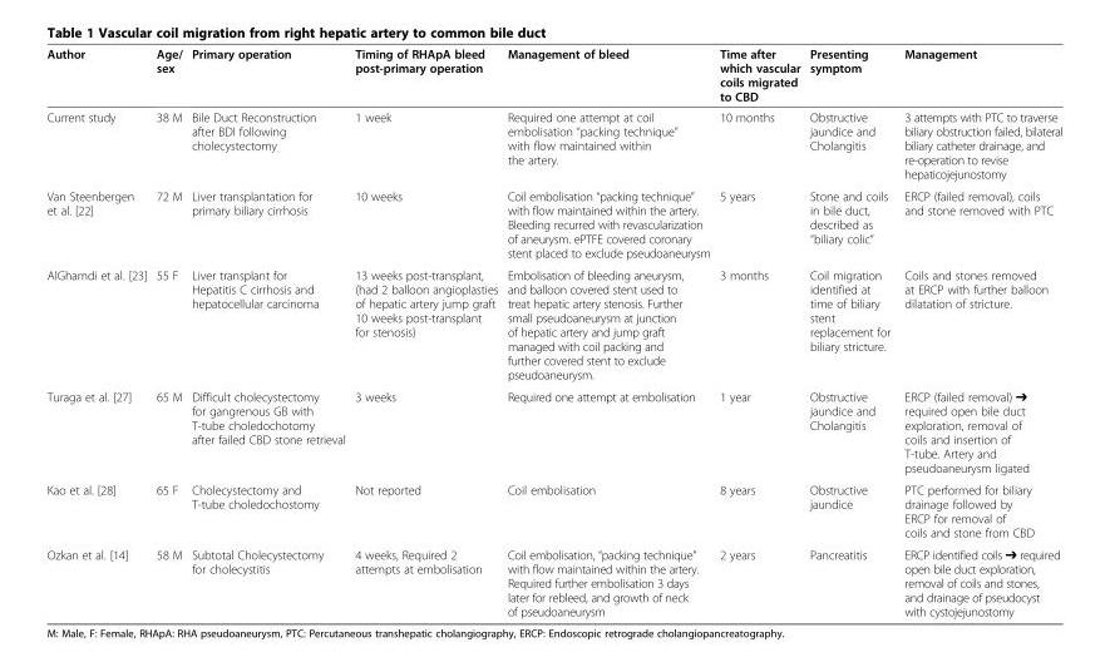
<table><thead><tr><td>Author</td><td>Age/ sex</td><td>Primary operation</td><td>Timing of RHApA bleed post-primary operation</td><td>Management of bleed</td><td>Time after which vascular coils migrated to CBD</td><td>Presenting symptom</td><td>Management</td></tr></thead><tbody><tr><td>Current study</td><td>38 M</td><td>Bile Duct Reconstruction after BDI following cholecystectomy</td><td>1 week</td><td>Required one attempt at coil embolisation “packing technique” with flow maintained within the artery.</td><td>10 months</td><td>Obstructive jaundice and Cholangitis</td><td>3 attempts with PTC to traverse biliary obstruction failed, bilateral biliary catheter drainage, and re-operation to revise hepaticojejunostomy</td></tr><tr><td>Van Steenbergen et al. [22]</td><td>72 M</td><td>Liver transplantation for primary biliary cirrhosis</td><td>10 weeks</td><td>Coil embolisation “packing technique” with flow maintained within the artery. Bleeding recurred with revascularization of aneurysm. ePTFE covered coronary stent placed to exclude pseudoaneurysm</td><td>5 years</td><td>Stone and coils in bile duct, described as “biliary colic”</td><td>ERCP (failed removal), coils and stone removed with PTC</td></tr><tr><td>AlGhamdi et al. [23]</td><td>55 F</td><td>Liver transplant for Hepatitis C cirrhosis and hepatocellular carcinoma</td><td>13 weeks post-transplant, (had 2 balloon angioplasties of hepatic artery jump graft 10 weeks post-transplant for stenosis)</td><td>Embolisation of bleeding aneurysm, and balloon covered stent used to treat hepatic artery stenosis. Further small pseudoaneurysm at junction of hepatic artery and jump graft managed with coil packing and further covered stent to exclude pseudoaneurysm.</td><td>3 months</td><td>Coil migration identified at time of biliary stent replacement for biliary stricture.</td><td>Coils and stones removed at ERCP with further balloon dilatation of stricture.</td></tr><tr><td>Turaga et al. [27]</td><td>65 M</td><td>Difficult cholecystectomy for gangrenous GB with T-tube choledochotomy after failed CBD stone retrieval</td><td>3 weeks</td><td>Required one attempt at embolisation</td><td>1 year</td><td>Obstructive jaundice and Cholangitis</td><td>ERCP (failed removal) ➔ required open bile duct exploration, removal of coils and insertion of T-tube. Artery and pseudoaneurysm ligated</td></tr><tr><td>Kao et al. [28]</td><td>65 F</td><td>Cholecystectomy and T-tube choledochostomy</td><td>Not reported</td><td>Coil embolisation</td><td>8 years</td><td>Obstructive jaundice</td><td>PTC performed for biliary drainage followed by ERCP for removal of coils and stone from CBD</td></tr><tr><td>Ozkan et al. [14]</td><td>58 M</td><td>Subtotal Cholecystectomy for cholecystitis</td><td>4 weeks, Required 2 attempts at embolisation</td><td>Coil embolisation, “packing technique” with flow maintained within the artery. Required further embolisation 3 days later for rebleed, and growth of neck of pseudoaneurysm</td><td>2 years</td><td>Pancreatitis</td><td>ERCP identified coils ➔ required open bile duct exploration, removal of coils and stones, and drainage of pseudocyst with cystojejunostomy</td></tr></tbody></table>